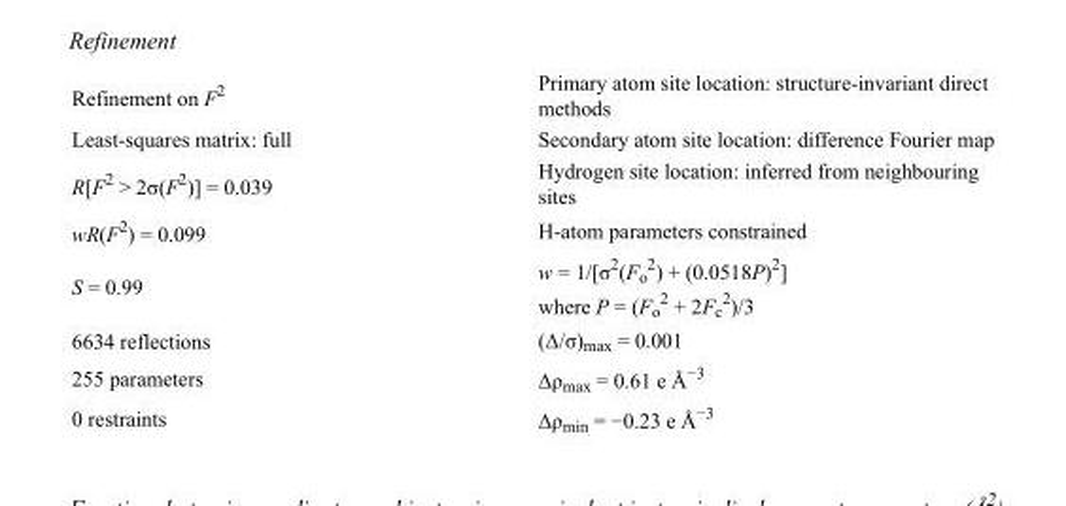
<table><tbody><tr><td>Refinement on F<sup>2</sup></td><td>Primary atom site location: structure-invariant direct methods</td></tr><tr><td>Least-squares matrix: full</td><td>Secondary atom site location: difference Fourier map</td></tr><tr><td>R[F<sup>2</sup> &gt; 2σ(F<sup>2</sup>)] = 0.039</td><td>Hydrogen site location: inferred from neighbouring sites</td></tr><tr><td>wR(F<sup>2</sup>) = 0.099</td><td>H-atom parameters constrained</td></tr><tr><td>S = 0.99</td><td>w = 1/[σ<sup>2</sup>(F<sub>o</sub> <sup>2</sup>) + (0.0518P)<sup>2</sup>] where P = (F<sub>o</sub> <sup>2</sup> + 2F<sub>c</sub> <sup>2</sup>)/3</td></tr><tr><td>6634 reflections</td><td>(Δ/σ)<sub>max</sub> = 0.001</td></tr><tr><td>255 parameters</td><td>Δρ<sub>max</sub> = 0.61 e Å<sup>−3</sup></td></tr><tr><td>0 restraints</td><td>Δρ<sub>min</sub> = −0.23 e Å<sup>−3</sup></td></tr></tbody></table>